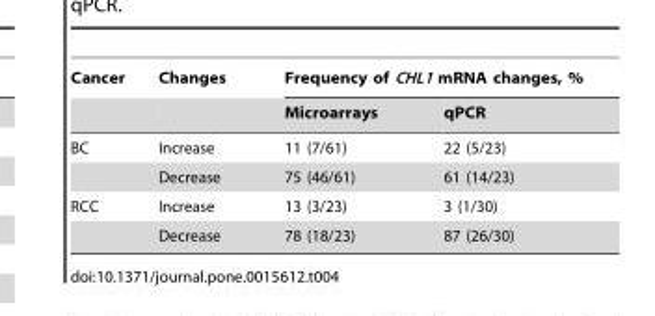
<table><thead><tr><td rowspan="2">Cancer</td><td rowspan="2">Changes</td><td colspan="2">Frequency of CHL1 mRNA changes, %</td></tr><tr><td>Microarrays</td><td>qPCR</td></tr></thead><tbody><tr><td rowspan="2">BC</td><td>Increase</td><td>11 (7/61)</td><td>22 (5/23)</td></tr><tr><td>Decrease</td><td>75 (46/61)</td><td>61 (14/23)</td></tr><tr><td rowspan="2">RCC</td><td>Increase</td><td>13 (3/23)</td><td>3 (1/30)</td></tr><tr><td>Decrease</td><td>78 (18/23)</td><td>87 (26/30)</td></tr></tbody></table>